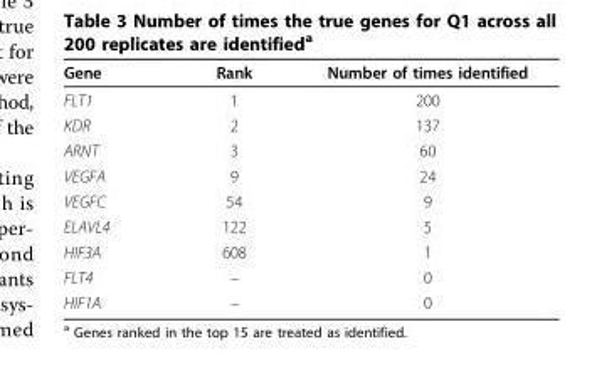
<table><thead><tr><td>Gene</td><td>Rank</td><td>Number of times identified</td></tr></thead><tbody><tr><td>FLT1</td><td>1</td><td>200</td></tr><tr><td>KDR</td><td>2</td><td>137</td></tr><tr><td>ARNT</td><td>3</td><td>60</td></tr><tr><td>VEGFA</td><td>9</td><td>24</td></tr><tr><td>VEGFC</td><td>54</td><td>9</td></tr><tr><td>ELAVL4</td><td>122</td><td>5</td></tr><tr><td>HIF3A</td><td>608</td><td>1</td></tr><tr><td>FLT4</td><td>–</td><td>0</td></tr><tr><td>HIF1A</td><td>–</td><td>0</td></tr></tbody></table>